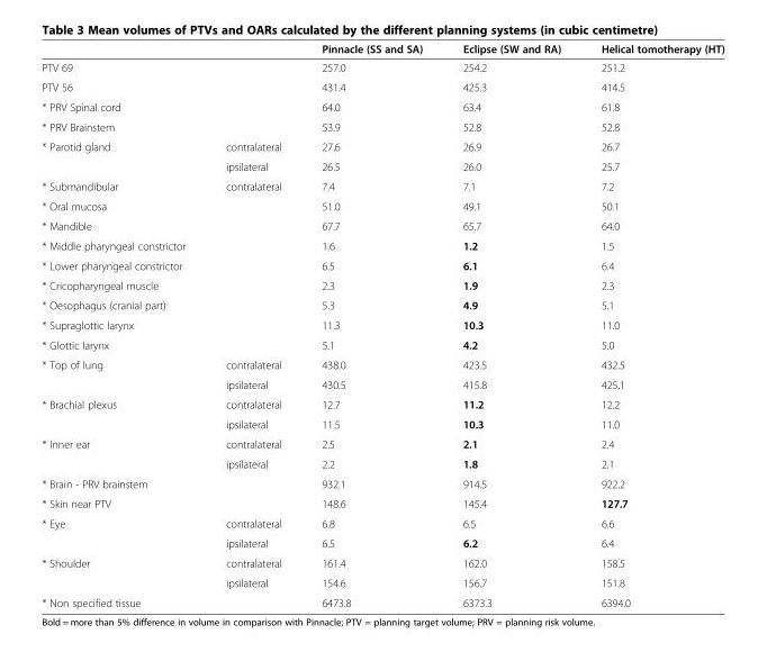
<table><thead><tr><td></td><td></td><td>Pinnacle (SS and SA)</td><td>Eclipse (SW and RA)</td><td>Helical tomotherapy (HT)</td></tr></thead><tbody><tr><td>PTV 69</td><td></td><td>257.0</td><td>254.2</td><td>251.2</td></tr><tr><td>PTV 56</td><td></td><td>431.4</td><td>425.3</td><td>414.5</td></tr><tr><td>* PRV Spinal cord</td><td></td><td>64.0</td><td>63.4</td><td>61.8</td></tr><tr><td>* PRV Brainstem</td><td></td><td>53.9</td><td>52.8</td><td>52.8</td></tr><tr><td rowspan="2">* Parotid gland</td><td>contralateral</td><td>27.6</td><td>26.9</td><td>26.7</td></tr><tr><td>ipsilateral</td><td>26.5</td><td>26.0</td><td>25.7</td></tr><tr><td>* Submandibular</td><td>contralateral</td><td>7.4</td><td>7.1</td><td>7.2</td></tr><tr><td>* Oral mucosa</td><td></td><td>51.0</td><td>49.1</td><td>50.1</td></tr><tr><td>* Mandible</td><td></td><td>67.7</td><td>65.7</td><td>64.0</td></tr><tr><td>* Middle pharyngeal constrictor</td><td></td><td>1.6</td><td>1.2</td><td>1.5</td></tr><tr><td>* Lower pharyngeal constrictor</td><td></td><td>6.5</td><td>6.1</td><td>6.4</td></tr><tr><td>* Cricopharyngeal muscle</td><td></td><td>2.3</td><td>1.9</td><td>2.3</td></tr><tr><td>* Oesophagus (cranial part)</td><td></td><td>5.3</td><td>4.9</td><td>5.1</td></tr><tr><td>* Supraglottic larynx</td><td></td><td>11.3</td><td>10.3</td><td>11.0</td></tr><tr><td>* Glottic larynx</td><td></td><td>5.1</td><td>4.2</td><td>5.0</td></tr><tr><td rowspan="2">* Top of lung</td><td>contralateral</td><td>438.0</td><td>423.5</td><td>432.5</td></tr><tr><td>ipsilateral</td><td>430.5</td><td>415.8</td><td>425.1</td></tr><tr><td rowspan="2">* Brachial plexus</td><td>contralateral</td><td>12.7</td><td>11.2</td><td>12.2</td></tr><tr><td>ipsilateral</td><td>11.5</td><td>10.3</td><td>11.0</td></tr><tr><td rowspan="2">* Inner ear</td><td>contralateral</td><td>2.5</td><td>2.1</td><td>2.4</td></tr><tr><td>ipsilateral</td><td>2.2</td><td>1.8</td><td>2.1</td></tr><tr><td>* Brain - PRV brainstem</td><td></td><td>932.1</td><td>914.5</td><td>922.2</td></tr><tr><td>* Skin near PTV</td><td></td><td>148.6</td><td>145.4</td><td>127.7</td></tr><tr><td rowspan="2">* Eye</td><td>contralateral</td><td>6.8</td><td>6.5</td><td>6.6</td></tr><tr><td>ipsilateral</td><td>6.5</td><td>6.2</td><td>6.4</td></tr><tr><td rowspan="2">* Shoulder</td><td>contralateral</td><td>161.4</td><td>162.0</td><td>158.5</td></tr><tr><td>ipsilateral</td><td>154.6</td><td>156.7</td><td>151.8</td></tr><tr><td>* Non specified tissue</td><td></td><td>6473.8</td><td>6373.3</td><td>6394.0</td></tr></tbody></table>